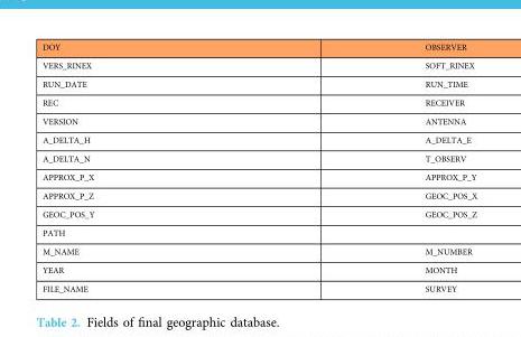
<table><thead><tr><td>DOY</td><td>OBSERVER</td></tr></thead><tbody><tr><td>VERS_RINEX</td><td>SOFT_RINEX</td></tr><tr><td>RUN_DATE</td><td>RUN_TIME</td></tr><tr><td>REC</td><td>RECEIVER</td></tr><tr><td>VERSION</td><td>ANTENNA</td></tr><tr><td>A_DELTA_H</td><td>A_DELTA_E</td></tr><tr><td>A_DELTA_N</td><td>T_OBSERV</td></tr><tr><td>APPROX_P_X</td><td>APPROX_P_Y</td></tr><tr><td>APPROX_P_Z</td><td>GEOC_POS_X</td></tr><tr><td>GEOC_POS_Y</td><td>GEOC_POS_Z</td></tr><tr><td colspan="2">PATH</td></tr><tr><td>M_NAME</td><td>M_NUMBER</td></tr><tr><td>YEAR</td><td>MONTH</td></tr><tr><td>FILE_NAME</td><td>SURVEY</td></tr></tbody></table>